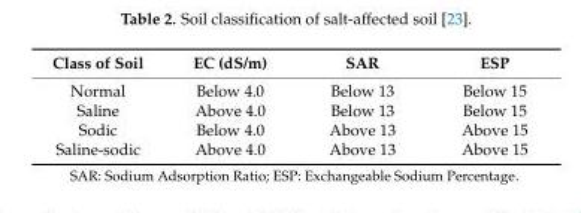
<table><thead><tr><td>Class of Soil</td><td>EC (dS/m)</td><td>SAR</td><td>ESP</td></tr></thead><tbody><tr><td>Normal</td><td>Below 4.0</td><td>Below 13</td><td>Below 15</td></tr><tr><td>Saline</td><td>Above 4.0</td><td>Below 13</td><td>Below 15</td></tr><tr><td>Sodic</td><td>Below 4.0</td><td>Above 13</td><td>Above 15</td></tr><tr><td>Saline-sodic</td><td>Above 4.0</td><td>Above 13</td><td>Above 15</td></tr></tbody></table>